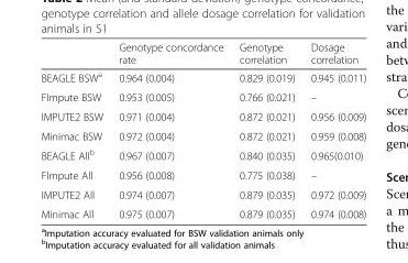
<table><thead><tr><td></td><td>Genotype concordance rate</td><td>Genotype correlation</td><td>Dosage correlation</td></tr></thead><tbody><tr><td>BEAGLE BSW<sup>a</sup></td><td>0.964 (0.004)</td><td>0.829 (0.019)</td><td>0.945 (0.011)</td></tr><tr><td>FImpute BSW</td><td>0.953 (0.005)</td><td>0.766 (0.021)</td><td>–</td></tr><tr><td>IMPUTE2 BSW</td><td>0.971 (0.004)</td><td>0.872 (0.021)</td><td>0.956 (0.009)</td></tr><tr><td>Minimac BSW</td><td>0.972 (0.004)</td><td>0.872 (0.021)</td><td>0.959 (0.008)</td></tr><tr><td>BEAGLE All<sup>b</sup></td><td>0.967 (0.007)</td><td>0.840 (0.035)</td><td>0.965(0.010)</td></tr><tr><td>FImpute All</td><td>0.956 (0.008)</td><td>0.775 (0.038)</td><td>–</td></tr><tr><td>IMPUTE2 All</td><td>0.974 (0.007)</td><td>0.879 (0.035)</td><td>0.972 (0.009)</td></tr><tr><td>Minimac All</td><td>0.975 (0.007)</td><td>0.879 (0.035)</td><td>0.974 (0.008)</td></tr></tbody></table>